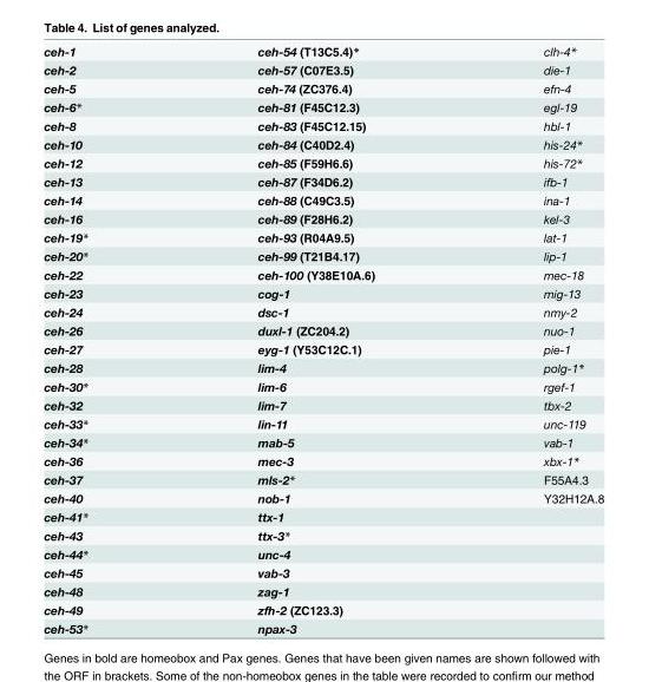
<table><tbody><tr><td>ceh-1</td><td>ceh-54 (T13C5.4)*</td><td>clh-4*</td></tr><tr><td>ceh-2</td><td>ceh-57 (C07E3.5)</td><td>die-1</td></tr><tr><td>ceh-5</td><td>ceh-74 (ZC376.4)</td><td>efn-4</td></tr><tr><td>ceh-6*</td><td>ceh-81 (F45C12.3)</td><td>egl-19</td></tr><tr><td>ceh-8</td><td>ceh-83 (F45C12.15)</td><td>hbl-1</td></tr><tr><td>ceh-10</td><td>ceh-84 (C40D2.4)</td><td>his-24*</td></tr><tr><td>ceh-12</td><td>ceh-85 (F59H6.6)</td><td>his-72*</td></tr><tr><td>ceh-13</td><td>ceh-87 (F34D6.2)</td><td>ifb-1</td></tr><tr><td>ceh-14</td><td>ceh-88 (C49C3.5)</td><td>ina-1</td></tr><tr><td>ceh-16</td><td>ceh-89 (F28H6.2)</td><td>kel-3</td></tr><tr><td>ceh-19*</td><td>ceh-93 (R04A9.5)</td><td>lat-1</td></tr><tr><td>ceh-20*</td><td>ceh-99 (T21B4.17)</td><td>lip-1</td></tr><tr><td>ceh-22</td><td>ceh-100 (Y38E10A.6)</td><td>mec-18</td></tr><tr><td>ceh-23</td><td>cog-1</td><td>mig-13</td></tr><tr><td>ceh-24</td><td>dsc-1</td><td>nmy-2</td></tr><tr><td>ceh-26</td><td>duxl-1 (ZC204.2)</td><td>nuo-1</td></tr><tr><td>ceh-27</td><td>eyg-1 (Y53C12C.1)</td><td>pie-1</td></tr><tr><td>ceh-28</td><td>lim-4</td><td>polg-1*</td></tr><tr><td>ceh-30*</td><td>lim-6</td><td>rgef-1</td></tr><tr><td>ceh-32</td><td>lim-7</td><td>tbx-2</td></tr><tr><td>ceh-33*</td><td>lin-11</td><td>unc-119</td></tr><tr><td>ceh-34*</td><td>mab-5</td><td>vab-1</td></tr><tr><td>ceh-36</td><td>mec-3</td><td>xbx-1*</td></tr><tr><td>ceh-37</td><td>mls-2*</td><td>F55A4.3</td></tr><tr><td>ceh-40</td><td>nob-1</td><td>Y32H12A.8</td></tr><tr><td>ceh-41*</td><td>ttx-1</td><td></td></tr><tr><td>ceh-43</td><td>ttx-3*</td><td></td></tr><tr><td>ceh-44*</td><td>unc-4</td><td></td></tr><tr><td>ceh-45</td><td>vab-3</td><td></td></tr><tr><td>ceh-48</td><td>zag-1</td><td></td></tr><tr><td>ceh-49</td><td>zfh-2 (ZC123.3)</td><td></td></tr><tr><td>ceh-53*</td><td>npax-3</td><td></td></tr></tbody></table>